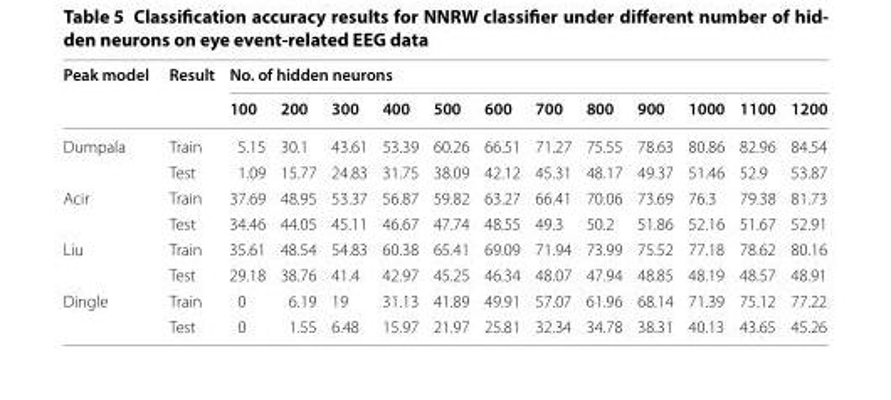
<table><thead><tr><td rowspan="2">Peak model</td><td rowspan="2">Result</td><td colspan="12">No. of hidden neurons</td></tr><tr><td>100</td><td>200</td><td>300</td><td>400</td><td>500</td><td>600</td><td>700</td><td>800</td><td>900</td><td>1000</td><td>1100</td><td>1200</td></tr></thead><tbody><tr><td rowspan="2">Dumpala</td><td>Train</td><td>5.15</td><td>30.1</td><td>43.61</td><td>53.39</td><td>60.26</td><td>66.51</td><td>71.27</td><td>75.55</td><td>78.63</td><td>80.86</td><td>82.96</td><td>84.54</td></tr><tr><td>Test</td><td>1.09</td><td>15.77</td><td>24.83</td><td>31.75</td><td>38.09</td><td>42.12</td><td>45.31</td><td>48.17</td><td>49.37</td><td>51.46</td><td>52.9</td><td>53.87</td></tr><tr><td rowspan="2">Acir</td><td>Train</td><td>37.69</td><td>48.95</td><td>53.37</td><td>56.87</td><td>59.82</td><td>63.27</td><td>66.41</td><td>70.06</td><td>73.69</td><td>76.3</td><td>79.38</td><td>81.73</td></tr><tr><td>Test</td><td>34.46</td><td>44.05</td><td>45.11</td><td>46.67</td><td>47.74</td><td>48.55</td><td>49.3</td><td>50.2</td><td>51.86</td><td>52.16</td><td>51.67</td><td>52.91</td></tr><tr><td rowspan="2">Liu</td><td>Train</td><td>35.61</td><td>48.54</td><td>54.83</td><td>60.38</td><td>65.41</td><td>69.09</td><td>71.94</td><td>73.99</td><td>75.52</td><td>77.18</td><td>78.62</td><td>80.16</td></tr><tr><td>Test</td><td>29.18</td><td>38.76</td><td>41.4</td><td>42.97</td><td>45.25</td><td>46.34</td><td>48.07</td><td>47.94</td><td>48.85</td><td>48.19</td><td>48.57</td><td>48.91</td></tr><tr><td rowspan="2">Dingle</td><td>Train</td><td>0</td><td>6.19</td><td>19</td><td>31.13</td><td>41.89</td><td>49.91</td><td>57.07</td><td>61.96</td><td>68.14</td><td>71.39</td><td>75.12</td><td>77.22</td></tr><tr><td>Test</td><td>0</td><td>1.55</td><td>6.48</td><td>15.97</td><td>21.97</td><td>25.81</td><td>32.34</td><td>34.78</td><td>38.31</td><td>40.13</td><td>43.65</td><td>45.26</td></tr></tbody></table>